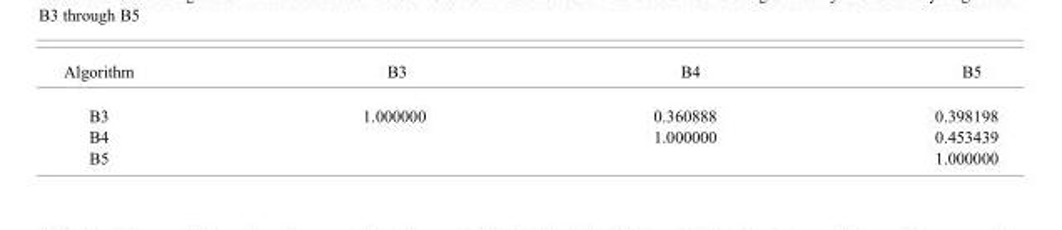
<table><thead><tr><td>Algorithm</td><td>B3</td><td>B4</td><td>B5</td></tr></thead><tbody><tr><td>B3</td><td>1.000000</td><td>0.360888</td><td>0.398198</td></tr><tr><td>B4</td><td></td><td>1.000000</td><td>0.453439</td></tr><tr><td>B5</td><td></td><td></td><td>1.000000</td></tr></tbody></table>